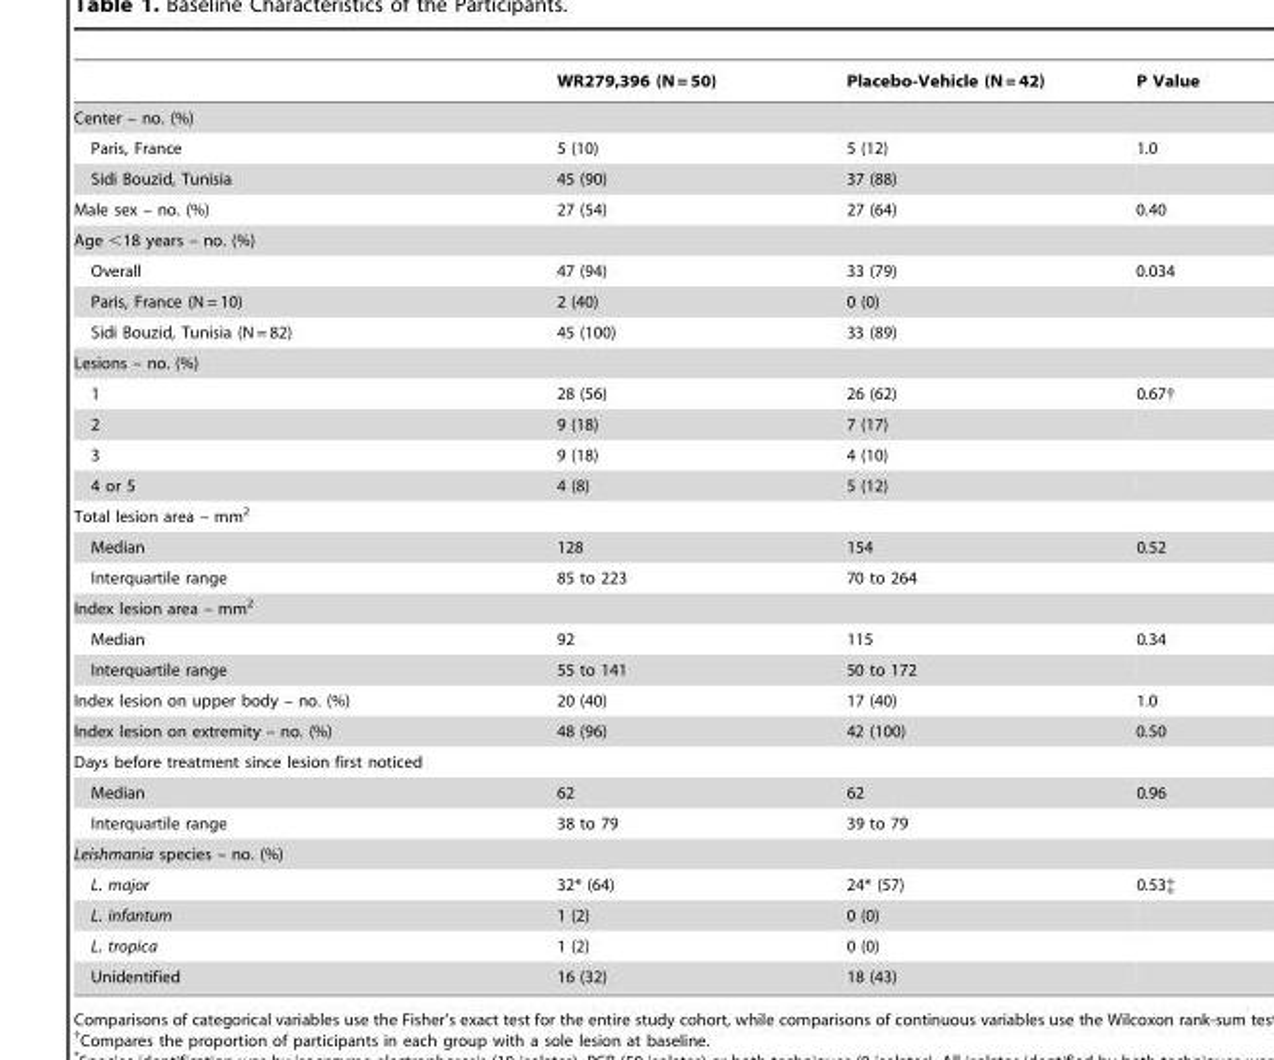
<table><thead><tr><td></td><td>WR279,396 (N = 50)</td><td>Placebo-Vehicle (N = 42)</td><td>P Value</td></tr></thead><tbody><tr><td colspan="4">Center – no. (%)</td></tr><tr><td>Paris, France</td><td>5 (10)</td><td>5 (12)</td><td>1.0</td></tr><tr><td>Sidi Bouzid, Tunisia</td><td>45 (90)</td><td>37 (88)</td><td></td></tr><tr><td>Male sex – no. (%)</td><td>27 (54)</td><td>27 (64)</td><td>0.40</td></tr><tr><td colspan="4">Age &lt;18 years – no. (%)</td></tr><tr><td>Overall</td><td>47 (94)</td><td>33 (79)</td><td>0.034</td></tr><tr><td>Paris, France (N = 10)</td><td>2 (40)</td><td>0 (0)</td><td></td></tr><tr><td>Sidi Bouzid, Tunisia (N = 82)</td><td>45 (100)</td><td>33 (89)</td><td></td></tr><tr><td colspan="4">Lesions – no. (%)</td></tr><tr><td>1</td><td>28 (56)</td><td>26 (62)</td><td>0.67†</td></tr><tr><td>2</td><td>9 (18)</td><td>7 (17)</td><td></td></tr><tr><td>3</td><td>9 (18)</td><td>4 (10)</td><td></td></tr><tr><td>4 or 5</td><td>4 (8)</td><td>5 (12)</td><td></td></tr><tr><td colspan="4">Total lesion area – mm<sup>2</sup></td></tr><tr><td>Median</td><td>128</td><td>154</td><td>0.52</td></tr><tr><td>Interquartile range</td><td>85 to 223</td><td>70 to 264</td><td></td></tr><tr><td colspan="4">Index lesion area – mm<sup>2</sup></td></tr><tr><td>Median</td><td>92</td><td>115</td><td>0.34</td></tr><tr><td>Interquartile range</td><td>55 to 141</td><td>50 to 172</td><td></td></tr><tr><td>Index lesion on upper body – no. (%)</td><td>20 (40)</td><td>17 (40)</td><td>1.0</td></tr><tr><td>Index lesion on extremity – no. (%)</td><td>48 (96)</td><td>42 (100)</td><td>0.50</td></tr><tr><td colspan="4">Days before treatment since lesion first noticed</td></tr><tr><td>Median</td><td>62</td><td>62</td><td>0.96</td></tr><tr><td>Interquartile range</td><td>38 to 79</td><td>39 to 79</td><td></td></tr><tr><td colspan="4">Leishmania species – no. (%)</td></tr><tr><td>L. major</td><td>32* (64)</td><td>24* (57)</td><td>0.53‡</td></tr><tr><td>L. infantum</td><td>1 (2)</td><td>0 (0)</td><td></td></tr><tr><td>L. tropica</td><td>1 (2)</td><td>0 (0)</td><td></td></tr><tr><td>Unidentified</td><td>16 (32)</td><td>18 (43)</td><td></td></tr></tbody></table>